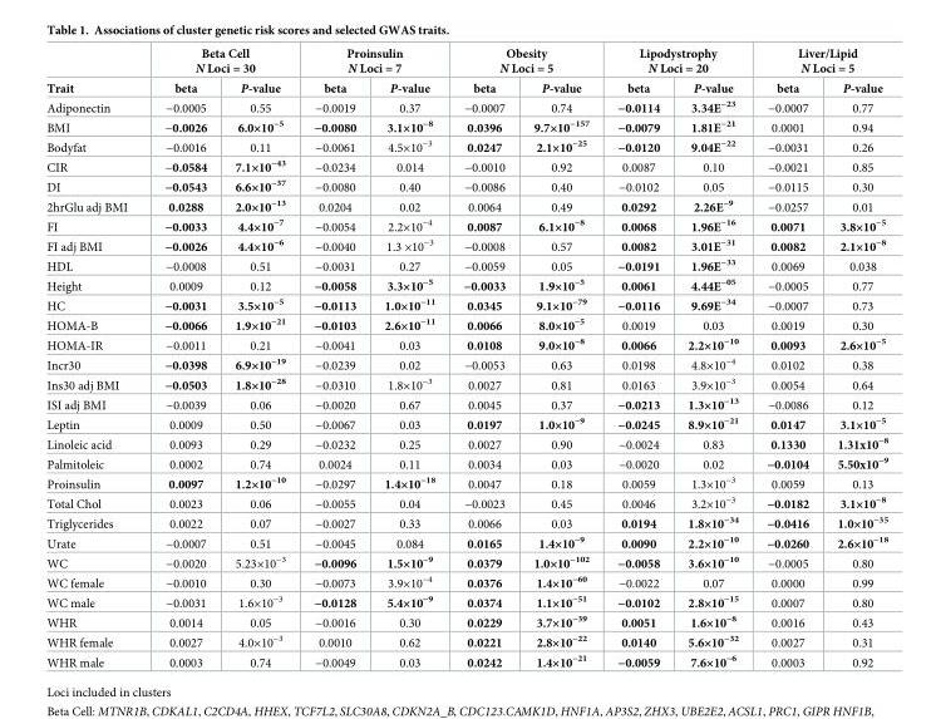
<table><thead><tr><td rowspan="2">Trait</td><td colspan="2">Beta Cell N Loci = 30</td><td colspan="2">Proinsulin N Loci = 7</td><td colspan="2">Obesity N Loci = 5</td><td colspan="2">Lipodystrophy N Loci = 20</td><td colspan="2">Liver/Lipid N Loci = 5</td></tr><tr><td>beta</td><td>P-value</td><td>beta</td><td>P-value</td><td>beta</td><td>P-value</td><td>beta</td><td>P-value</td><td>beta</td><td>P-value</td></tr></thead><tbody><tr><td>Adiponectin</td><td>−0.0005</td><td>0.55</td><td>−0.0019</td><td>0.37</td><td>−0.0007</td><td>0.74</td><td>−0.0114</td><td>3.34E<sup>−23</sup></td><td>−0.0007</td><td>0.77</td></tr><tr><td>BMI</td><td>−0.0026</td><td>6.0×10<sup>−5</sup></td><td>−0.0080</td><td>3.1×10<sup>−8</sup></td><td>0.0396</td><td>9.7×10<sup>−157</sup></td><td>−0.0079</td><td>1.81E<sup>−21</sup></td><td>0.0001</td><td>0.94</td></tr><tr><td>Bodyfat</td><td>−0.0016</td><td>0.11</td><td>−0.0061</td><td>4.5×10<sup>−3</sup></td><td>0.0247</td><td>2.1×10<sup>−25</sup></td><td>−0.0120</td><td>9.04E<sup>−22</sup></td><td>−0.0031</td><td>0.26</td></tr><tr><td>CIR</td><td>−0.0584</td><td>7.1×10<sup>−43</sup></td><td>−0.0234</td><td>0.014</td><td>−0.0010</td><td>0.92</td><td>0.0087</td><td>0.10</td><td>−0.0021</td><td>0.85</td></tr><tr><td>DI</td><td>−0.0543</td><td>6.6×10<sup>−37</sup></td><td>−0.0080</td><td>0.40</td><td>−0.0086</td><td>0.40</td><td>−0.0102</td><td>0.05</td><td>−0.0115</td><td>0.30</td></tr><tr><td>2hrGlu adj BMI</td><td>0.0288</td><td>2.0×10<sup>−13</sup></td><td>0.0204</td><td>0.02</td><td>0.0064</td><td>0.49</td><td>0.0292</td><td>2.26E<sup>−9</sup></td><td>−0.0257</td><td>0.01</td></tr><tr><td>FI</td><td>−0.0033</td><td>4.4×10<sup>−7</sup></td><td>−0.0054</td><td>2.2×10<sup>−4</sup></td><td>0.0087</td><td>6.1×10<sup>−8</sup></td><td>0.0068</td><td>1.96E<sup>−16</sup></td><td>0.0071</td><td>3.8×10<sup>−5</sup></td></tr><tr><td>FI adj BMI</td><td>−0.0026</td><td>4.4×10<sup>−6</sup></td><td>−0.0040</td><td>1.3 ×10<sup>−3</sup></td><td>−0.0008</td><td>0.57</td><td>0.0082</td><td>3.01E<sup>−31</sup></td><td>0.0082</td><td>2.1×10<sup>−8</sup></td></tr><tr><td>HDL</td><td>−0.0008</td><td>0.51</td><td>−0.0031</td><td>0.27</td><td>−0.0059</td><td>0.05</td><td>−0.0191</td><td>1.96E<sup>−33</sup></td><td>0.0069</td><td>0.038</td></tr><tr><td>Height</td><td>0.0009</td><td>0.12</td><td>−0.0058</td><td>3.3×10<sup>−5</sup></td><td>−0.0033</td><td>1.9×10<sup>−5</sup></td><td>0.0061</td><td>4.44E<sup>−05</sup></td><td>−0.0005</td><td>0.77</td></tr><tr><td>HC</td><td>−0.0031</td><td>3.5×10<sup>−5</sup></td><td>−0.0113</td><td>1.0×10<sup>−11</sup></td><td>0.0345</td><td>9.1×10<sup>−79</sup></td><td>−0.0116</td><td>9.69E<sup>−34</sup></td><td>−0.0007</td><td>0.73</td></tr><tr><td>HOMA-B</td><td>−0.0066</td><td>1.9×10<sup>−21</sup></td><td>−0.0103</td><td>2.6×10<sup>−11</sup></td><td>0.0066</td><td>8.0×10<sup>−5</sup></td><td>0.0019</td><td>0.03</td><td>0.0019</td><td>0.30</td></tr><tr><td>HOMA-IR</td><td>−0.0011</td><td>0.21</td><td>−0.0041</td><td>0.03</td><td>0.0108</td><td>9.0×10<sup>−8</sup></td><td>0.0066</td><td>2.2×10<sup>−10</sup></td><td>0.0093</td><td>2.6×10<sup>−5</sup></td></tr><tr><td>Incr30</td><td>−0.0398</td><td>6.9×10<sup>−19</sup></td><td>−0.0239</td><td>0.02</td><td>−0.0053</td><td>0.63</td><td>0.0198</td><td>4.8×10<sup>−4</sup></td><td>0.0102</td><td>0.38</td></tr><tr><td>Ins30 adj BMI</td><td>−0.0503</td><td>1.8×10<sup>−28</sup></td><td>−0.0310</td><td>1.8×10<sup>−3</sup></td><td>0.0027</td><td>0.81</td><td>0.0163</td><td>3.9×10<sup>−3</sup></td><td>0.0054</td><td>0.64</td></tr><tr><td>ISI adj BMI</td><td>−0.0039</td><td>0.06</td><td>−0.0020</td><td>0.67</td><td>0.0045</td><td>0.37</td><td>−0.0213</td><td>1.3×10<sup>−13</sup></td><td>−0.0086</td><td>0.12</td></tr><tr><td>Leptin</td><td>0.0009</td><td>0.50</td><td>−0.0067</td><td>0.03</td><td>0.0197</td><td>1.0×10<sup>−9</sup></td><td>−0.0245</td><td>8.9×10<sup>−21</sup></td><td>0.0147</td><td>3.1×10<sup>−5</sup></td></tr><tr><td>Linoleic acid</td><td>0.0093</td><td>0.29</td><td>−0.0232</td><td>0.25</td><td>0.0027</td><td>0.90</td><td>−0.0024</td><td>0.83</td><td>0.1330</td><td>1.31x10<sup>−8</sup></td></tr><tr><td>Palmitoleic</td><td>0.0002</td><td>0.74</td><td>0.0024</td><td>0.11</td><td>0.0034</td><td>0.03</td><td>−0.0020</td><td>0.02</td><td>−0.0104</td><td>5.50x10<sup>−9</sup></td></tr><tr><td>Proinsulin</td><td>0.0097</td><td>1.2×10<sup>−10</sup></td><td>−0.0297</td><td>1.4×10<sup>−18</sup></td><td>0.0047</td><td>0.18</td><td>0.0059</td><td>1.3×10<sup>−3</sup></td><td>0.0059</td><td>0.13</td></tr><tr><td>Total Chol</td><td>0.0023</td><td>0.06</td><td>−0.0055</td><td>0.04</td><td>−0.0023</td><td>0.45</td><td>0.0046</td><td>3.2×10<sup>−3</sup></td><td>−0.0182</td><td>3.1×10<sup>−8</sup></td></tr><tr><td>Triglycerides</td><td>0.0022</td><td>0.07</td><td>−0.0027</td><td>0.33</td><td>0.0066</td><td>0.03</td><td>0.0194</td><td>1.8×10<sup>−34</sup></td><td>−0.0416</td><td>1.0×10<sup>−35</sup></td></tr><tr><td>Urate</td><td>−0.0007</td><td>0.51</td><td>−0.0045</td><td>0.084</td><td>0.0165</td><td>1.4×10<sup>−9</sup></td><td>0.0090</td><td>2.2×10<sup>−10</sup></td><td>−0.0260</td><td>2.6×10<sup>−18</sup></td></tr><tr><td>WC</td><td>−0.0020</td><td>5.23×10<sup>−3</sup></td><td>−0.0096</td><td>1.5×10<sup>−9</sup></td><td>0.0379</td><td>1.0×10<sup>−102</sup></td><td>−0.0058</td><td>3.6×10<sup>−10</sup></td><td>−0.0005</td><td>0.80</td></tr><tr><td>WC female</td><td>−0.0010</td><td>0.30</td><td>−0.0073</td><td>3.9×10<sup>−4</sup></td><td>0.0376</td><td>1.4×10<sup>−60</sup></td><td>−0.0022</td><td>0.07</td><td>0.0000</td><td>0.99</td></tr><tr><td>WC male</td><td>−0.0031</td><td>1.6×10<sup>−3</sup></td><td>−0.0128</td><td>5.4×10<sup>−9</sup></td><td>0.0374</td><td>1.1×10<sup>−51</sup></td><td>−0.0102</td><td>2.8×10<sup>−15</sup></td><td>0.0007</td><td>0.80</td></tr><tr><td>WHR</td><td>0.0014</td><td>0.05</td><td>−0.0016</td><td>0.30</td><td>0.0229</td><td>3.7×10<sup>−39</sup></td><td>0.0051</td><td>1.6×10<sup>−8</sup></td><td>0.0016</td><td>0.43</td></tr><tr><td>WHR female</td><td>0.0027</td><td>4.0×10<sup>−3</sup></td><td>0.0010</td><td>0.62</td><td>0.0221</td><td>2.8×10<sup>−22</sup></td><td>0.0140</td><td>5.6×10<sup>−32</sup></td><td>0.0027</td><td>0.31</td></tr><tr><td>WHR male</td><td>0.0003</td><td>0.74</td><td>−0.0049</td><td>0.03</td><td>0.0242</td><td>1.4×10<sup>−21</sup></td><td>−0.0059</td><td>7.6×10<sup>−6</sup></td><td>0.0003</td><td>0.92</td></tr></tbody></table>